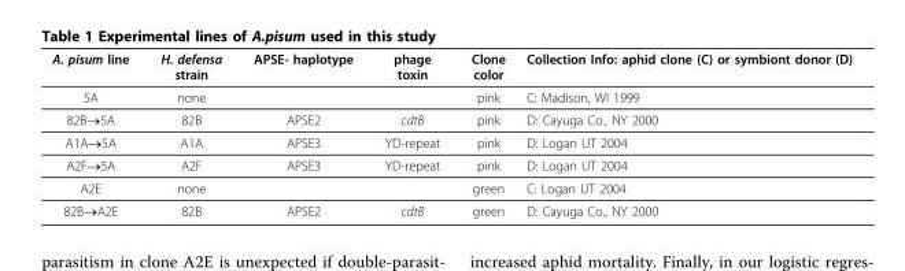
<table><thead><tr><td>A. pisum line</td><td>H. defensa strain</td><td>APSE- haplotype</td><td>phage toxin</td><td>Clone color</td><td>Collection Info: aphid clone (C) or symbiont donor (D)</td></tr></thead><tbody><tr><td>5A</td><td>none</td><td></td><td></td><td>pink</td><td>C: Madison, WI 1999</td></tr><tr><td>82B→5A</td><td>82B</td><td>APSE2</td><td>cdtB</td><td>pink</td><td>D: Cayuga Co., NY 2000</td></tr><tr><td>A1A→5A</td><td>A1A</td><td>APSE3</td><td>YD-repeat</td><td>pink</td><td>D: Logan UT 2004</td></tr><tr><td>A2F→5A</td><td>A2F</td><td>APSE3</td><td>YD-repeat</td><td>pink</td><td>D: Logan UT 2004</td></tr><tr><td>A2E</td><td>none</td><td></td><td></td><td>green</td><td>C: Logan UT 2004</td></tr><tr><td>82B→A2E</td><td>82B</td><td>APSE2</td><td>cdtB</td><td>green</td><td>D: Cayuga Co., NY 2000</td></tr></tbody></table>